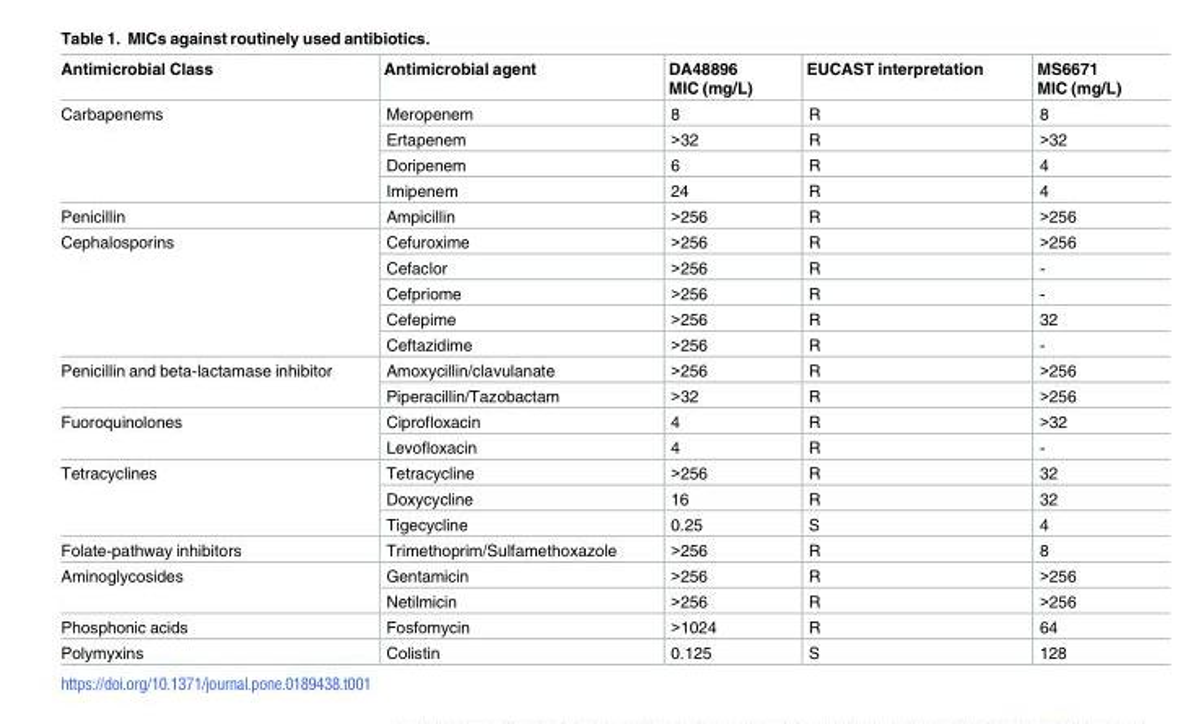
<table><thead><tr><td>Antimicrobial Class</td><td>Antimicrobial agent</td><td>DA48896 MIC (mg/L)</td><td>EUCAST interpretation</td><td>MS6671 MIC (mg/L)</td></tr></thead><tbody><tr><td rowspan="4">Carbapenems</td><td>Meropenem</td><td>8</td><td>R</td><td>8</td></tr><tr><td>Ertapenem</td><td>&gt;32</td><td>R</td><td>&gt;32</td></tr><tr><td>Doripenem</td><td>6</td><td>R</td><td>4</td></tr><tr><td>Imipenem</td><td>24</td><td>R</td><td>4</td></tr><tr><td>Penicillin</td><td>Ampicillin</td><td>&gt;256</td><td>R</td><td>&gt;256</td></tr><tr><td rowspan="5">Cephalosporins</td><td>Cefuroxime</td><td>&gt;256</td><td>R</td><td>&gt;256</td></tr><tr><td>Cefaclor</td><td>&gt;256</td><td>R</td><td>-</td></tr><tr><td>Cefpriome</td><td>&gt;256</td><td>R</td><td>-</td></tr><tr><td>Cefepime</td><td>&gt;256</td><td>R</td><td>32</td></tr><tr><td>Ceftazidime</td><td>&gt;256</td><td>R</td><td>-</td></tr><tr><td rowspan="2">Penicillin and beta-lactamase inhibitor</td><td>Amoxycillin/clavulanate</td><td>&gt;256</td><td>R</td><td>&gt;256</td></tr><tr><td>Piperacillin/Tazobactam</td><td>&gt;32</td><td>R</td><td>&gt;256</td></tr><tr><td rowspan="2">Fuoroquinolones</td><td>Ciprofloxacin</td><td>4</td><td>R</td><td>&gt;32</td></tr><tr><td>Levofloxacin</td><td>4</td><td>R</td><td>-</td></tr><tr><td rowspan="3">Tetracyclines</td><td>Tetracycline</td><td>&gt;256</td><td>R</td><td>32</td></tr><tr><td>Doxycycline</td><td>16</td><td>R</td><td>32</td></tr><tr><td>Tigecycline</td><td>0.25</td><td>S</td><td>4</td></tr><tr><td>Folate-pathway inhibitors</td><td>Trimethoprim/Sulfamethoxazole</td><td>&gt;256</td><td>R</td><td>8</td></tr><tr><td rowspan="2">Aminoglycosides</td><td>Gentamicin</td><td>&gt;256</td><td>R</td><td>&gt;256</td></tr><tr><td>Netilmicin</td><td>&gt;256</td><td>R</td><td>&gt;256</td></tr><tr><td>Phosphonic acids</td><td>Fosfomycin</td><td>&gt;1024</td><td>R</td><td>64</td></tr><tr><td>Polymyxins</td><td>Colistin</td><td>0.125</td><td>S</td><td>128</td></tr></tbody></table>